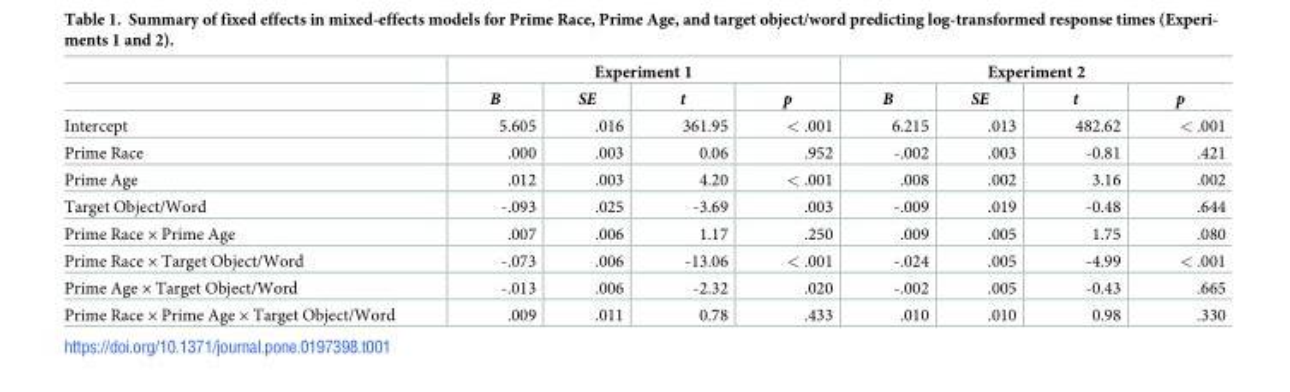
<table><thead><tr><td rowspan="2"></td><td colspan="4">Experiment 1</td><td colspan="4">Experiment 2</td></tr><tr><td>B</td><td>SE</td><td>t</td><td>p</td><td>B</td><td>SE</td><td>t</td><td>p</td></tr></thead><tbody><tr><td>Intercept</td><td>5.605</td><td>.016</td><td>361.95</td><td>&lt; .001</td><td>6.215</td><td>.013</td><td>482.62</td><td>&lt; .001</td></tr><tr><td>Prime Race</td><td>.000</td><td>.003</td><td>0.06</td><td>.952</td><td>-.002</td><td>.003</td><td>-0.81</td><td>.421</td></tr><tr><td>Prime Age</td><td>.012</td><td>.003</td><td>4.20</td><td>&lt; .001</td><td>.008</td><td>.002</td><td>3.16</td><td>.002</td></tr><tr><td>Target Object/Word</td><td>-.093</td><td>.025</td><td>-3.69</td><td>.003</td><td>-.009</td><td>.019</td><td>-0.48</td><td>.644</td></tr><tr><td>Prime Race × Prime Age</td><td>.007</td><td>.006</td><td>1.17</td><td>.250</td><td>.009</td><td>.005</td><td>1.75</td><td>.080</td></tr><tr><td>Prime Race × Target Object/Word</td><td>-.073</td><td>.006</td><td>-13.06</td><td>&lt; .001</td><td>-.024</td><td>.005</td><td>-4.99</td><td>&lt; .001</td></tr><tr><td>Prime Age × Target Object/Word</td><td>-.013</td><td>.006</td><td>-2.32</td><td>.020</td><td>-.002</td><td>.005</td><td>-0.43</td><td>.665</td></tr><tr><td>Prime Race × Prime Age × Target Object/Word</td><td>.009</td><td>.011</td><td>0.78</td><td>.433</td><td>.010</td><td>.010</td><td>0.98</td><td>.330</td></tr></tbody></table>